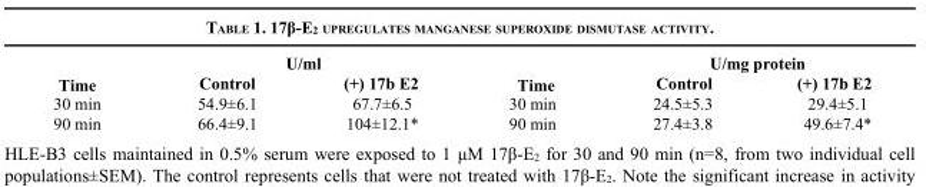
<table><tbody><tr><td rowspan="2">Time</td><td colspan="2">U/ml</td><td rowspan="2">Time</td><td colspan="2">U/mg protein</td></tr><tr><td>Control</td><td>(+) 17b E2</td><td>Control</td><td>(+) 17b E2</td></tr><tr><td>30 min</td><td>54.9±6.1</td><td>67.7±6.5</td><td>30 min</td><td>24.5±5.3</td><td>29.4±5.1</td></tr><tr><td>90 min</td><td>66.4±9.1</td><td>104±12.1*</td><td>90 min</td><td>27.4±3.8</td><td>49.6±7.4*</td></tr></tbody></table>